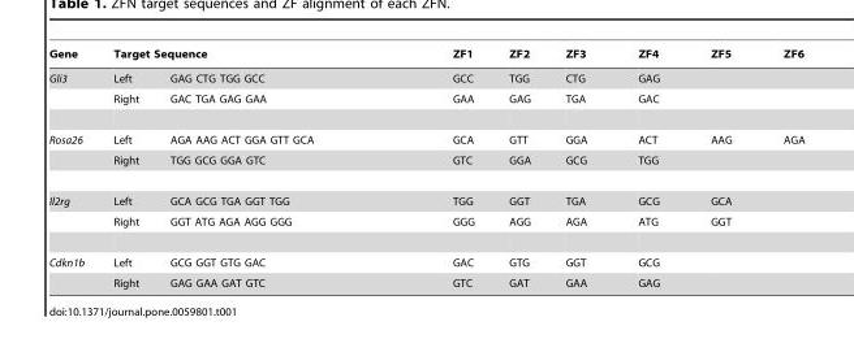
<table><thead><tr><td rowspan="2">Gene Gli3</td><td colspan="2">Target Sequence</td><td rowspan="2">ZF1 GCC</td><td rowspan="2">ZF2 TGG</td><td rowspan="2">ZF3 CTG</td><td rowspan="2">ZF4 GAG</td><td rowspan="2">ZF5</td><td rowspan="2">ZF6</td></tr><tr><td>Left</td><td>GAG CTG TGG GCC</td></tr></thead><tbody><tr><td></td><td>Right</td><td>GAC TGA GAG GAA</td><td>GAA</td><td>GAG</td><td>TGA</td><td>GAC</td><td></td><td></td></tr><tr><td rowspan="2">Rosa26</td><td>Left</td><td>AGA AAG ACT GGA GTT GCA</td><td>GCA</td><td>GTT</td><td>GGA</td><td>ACT</td><td>AAG</td><td>AGA</td></tr><tr><td>Right</td><td>TGG GCG GGA GTC</td><td>GTC</td><td>GGA</td><td>GCG</td><td>TGG</td><td></td><td></td></tr><tr><td rowspan="2">Il2rg</td><td>Left</td><td>GCA GCG TGA GGT TGG</td><td>TGG</td><td>GGT</td><td>TGA</td><td>GCG</td><td>GCA</td><td></td></tr><tr><td>Right</td><td>GGT ATG AGA AGG GGG</td><td>GGG</td><td>AGG</td><td>AGA</td><td>ATG</td><td>GGT</td><td></td></tr><tr><td rowspan="2">Cdkn1b</td><td>Left</td><td>GCG GGT GTG GAC</td><td>GAC</td><td>GTG</td><td>GGT</td><td>GCG</td><td></td><td></td></tr><tr><td>Right</td><td>GAG GAA GAT GTC</td><td>GTC</td><td>GAT</td><td>GAA</td><td>GAG</td><td></td><td></td></tr></tbody></table>